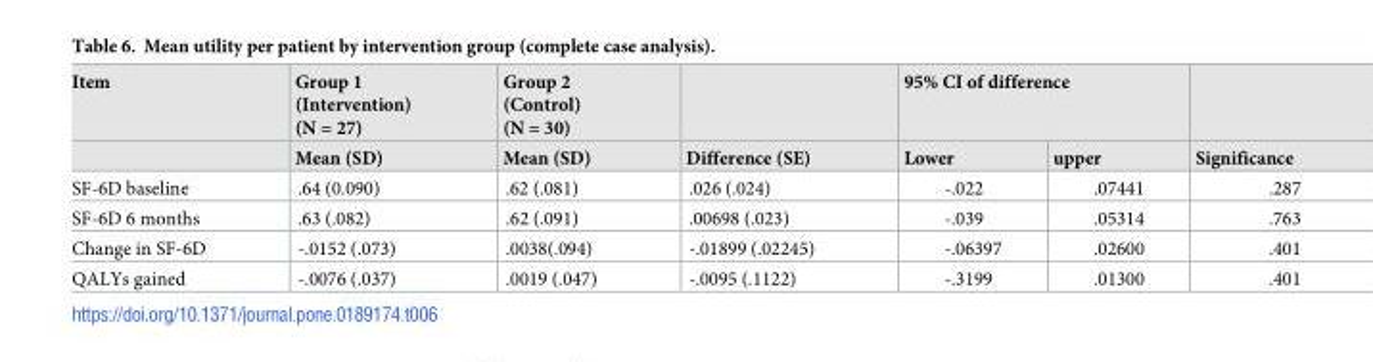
<table><thead><tr><td rowspan="2">Item</td><td rowspan="2">Group 1 (Intervention) (N = 27) Mean (SD)</td><td rowspan="2">Group 2 (Control) (N = 30) Mean (SD)</td><td rowspan="2">Difference (SE)</td><td colspan="2">95% CI of difference</td><td rowspan="2">Significance</td></tr><tr><td>Lower</td><td>upper</td></tr></thead><tbody><tr><td>SF-6D baseline</td><td>.64 (0.090)</td><td>.62 (.081)</td><td>.026 (.024)</td><td>-.022</td><td>.07441</td><td>.287</td></tr><tr><td>SF-6D 6 months</td><td>.63 (.082)</td><td>.62 (.091)</td><td>.00698 (.023)</td><td>-.039</td><td>.05314</td><td>.763</td></tr><tr><td>Change in SF-6D</td><td>-.0152 (.073)</td><td>.0038(.094)</td><td>-.01899 (.02245)</td><td>-.06397</td><td>.02600</td><td>.401</td></tr><tr><td>QALYs gained</td><td>-.0076 (.037)</td><td>.0019 (.047)</td><td>-.0095 (.1122)</td><td>-.3199</td><td>.01300</td><td>.401</td></tr></tbody></table>